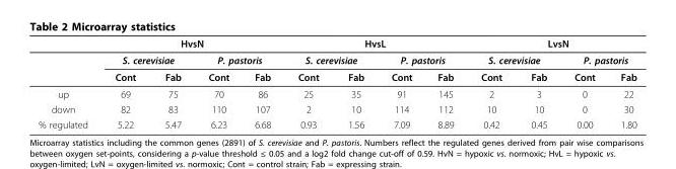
<table><thead><tr><td rowspan="3"></td><td colspan="4">HvsN</td><td colspan="4">HvsL</td><td colspan="4">LvsN</td></tr><tr><td colspan="2">S. cerevisiae</td><td colspan="2">P. pastoris</td><td colspan="2">S. cerevisiae</td><td colspan="2">P. pastoris</td><td colspan="2">S. cerevisiae</td><td colspan="2">P. pastoris</td></tr><tr><td>Cont</td><td>Fab</td><td>Cont</td><td>Fab</td><td>Cont</td><td>Fab</td><td>Cont</td><td>Fab</td><td>Cont</td><td>Fab</td><td>Cont</td><td>Fab</td></tr></thead><tbody><tr><td>up</td><td>69</td><td>75</td><td>70</td><td>86</td><td>25</td><td>35</td><td>91</td><td>145</td><td>2</td><td>3</td><td>0</td><td>22</td></tr><tr><td>down</td><td>82</td><td>83</td><td>110</td><td>107</td><td>2</td><td>10</td><td>114</td><td>112</td><td>10</td><td>10</td><td>0</td><td>30</td></tr><tr><td>% regulated</td><td>5.22</td><td>5.47</td><td>6.23</td><td>6.68</td><td>0.93</td><td>1.56</td><td>7.09</td><td>8.89</td><td>0.42</td><td>0.45</td><td>0.00</td><td>1.80</td></tr></tbody></table>